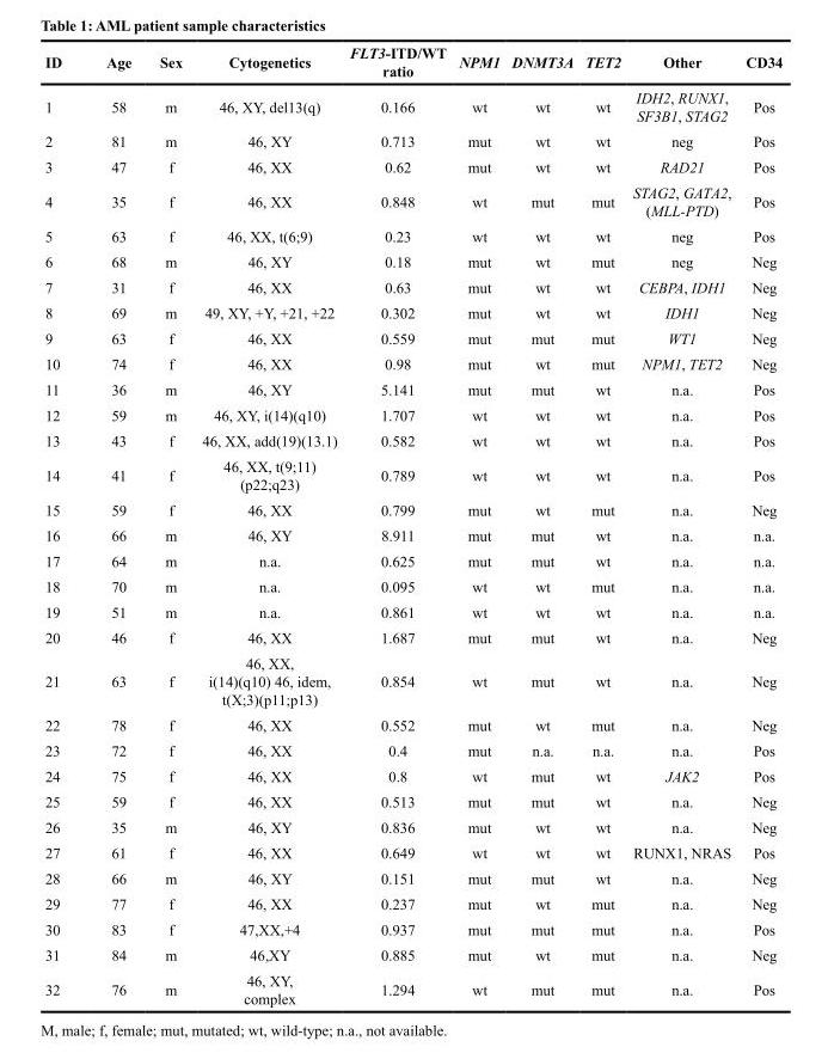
<table><thead><tr><td>ID</td><td>Age</td><td>Sex</td><td>Cytogenetics</td><td>FLT3-ITD/WT ratio</td><td>NPM1</td><td>DNMT3A</td><td>TET2</td><td>Other</td><td>CD34</td></tr></thead><tbody><tr><td>1</td><td>58</td><td>m</td><td>46, XY, del13(q)</td><td>0.166</td><td>wt</td><td>wt</td><td>wt</td><td>IDH2, RUNX1, SF3B1, STAG2</td><td>Pos</td></tr><tr><td>2</td><td>81</td><td>m</td><td>46, XY</td><td>0.713</td><td>mut</td><td>wt</td><td>wt</td><td>neg</td><td>Pos</td></tr><tr><td>3</td><td>47</td><td>f</td><td>46, XX</td><td>0.62</td><td>mut</td><td>wt</td><td>wt</td><td>RAD21</td><td>Pos</td></tr><tr><td>4</td><td>35</td><td>f</td><td>46, XX</td><td>0.848</td><td>wt</td><td>mut</td><td>mut</td><td>STAG2, GATA2, (MLL-PTD)</td><td>Pos</td></tr><tr><td>5</td><td>63</td><td>f</td><td>46, XX, t(6;9)</td><td>0.23</td><td>wt</td><td>wt</td><td>wt</td><td>neg</td><td>Pos</td></tr><tr><td>6</td><td>68</td><td>m</td><td>46, XY</td><td>0.18</td><td>mut</td><td>wt</td><td>mut</td><td>neg</td><td>Neg</td></tr><tr><td>7</td><td>31</td><td>f</td><td>46, XX</td><td>0.63</td><td>mut</td><td>wt</td><td>wt</td><td>CEBPA, IDH1</td><td>Neg</td></tr><tr><td>8</td><td>69</td><td>m</td><td>49, XY, +Y, +21, +22</td><td>0.302</td><td>mut</td><td>wt</td><td>wt</td><td>IDH1</td><td>Neg</td></tr><tr><td>9</td><td>63</td><td>f</td><td>46, XX</td><td>0.559</td><td>mut</td><td>mut</td><td>mut</td><td>WT1</td><td>Neg</td></tr><tr><td>10</td><td>74</td><td>f</td><td>46, XX</td><td>0.98</td><td>mut</td><td>wt</td><td>mut</td><td>NPM1, TET2</td><td>Neg</td></tr><tr><td>11</td><td>36</td><td>m</td><td>46, XY</td><td>5.141</td><td>mut</td><td>mut</td><td>wt</td><td>n.a.</td><td>Pos</td></tr><tr><td>12</td><td>59</td><td>m</td><td>46, XY, i(14)(q10)</td><td>1.707</td><td>wt</td><td>wt</td><td>wt</td><td>n.a.</td><td>Pos</td></tr><tr><td>13</td><td>43</td><td>f</td><td>46, XX, add(19)(13.1)</td><td>0.582</td><td>wt</td><td>wt</td><td>wt</td><td>n.a.</td><td>Pos</td></tr><tr><td>14</td><td>41</td><td>f</td><td>46, XX, t(9;11) (p22;q23)</td><td>0.789</td><td>wt</td><td>wt</td><td>wt</td><td>n.a.</td><td>Pos</td></tr><tr><td>15</td><td>59</td><td>f</td><td>46, XX</td><td>0.799</td><td>mut</td><td>wt</td><td>mut</td><td>n.a.</td><td>Neg</td></tr><tr><td>16</td><td>66</td><td>m</td><td>46, XY</td><td>8.911</td><td>mut</td><td>mut</td><td>wt</td><td>n.a.</td><td>n.a.</td></tr><tr><td>17</td><td>64</td><td>m</td><td>n.a.</td><td>0.625</td><td>mut</td><td>mut</td><td>wt</td><td>n.a.</td><td>n.a.</td></tr><tr><td>18</td><td>70</td><td>m</td><td>n.a.</td><td>0.095</td><td>wt</td><td>wt</td><td>mut</td><td>n.a.</td><td>n.a.</td></tr><tr><td>19</td><td>51</td><td>m</td><td>n.a.</td><td>0.861</td><td>wt</td><td>wt</td><td>wt</td><td>n.a.</td><td>n.a.</td></tr><tr><td>20</td><td>46</td><td>f</td><td>46, XX</td><td>1.687</td><td>mut</td><td>mut</td><td>wt</td><td>n.a.</td><td>Neg</td></tr><tr><td>21</td><td>63</td><td>f</td><td>46, XX, i(14)(q10) 46, idem, t(X;3)(p11;p13)</td><td>0.854</td><td>wt</td><td>mut</td><td>wt</td><td>n.a.</td><td>Neg</td></tr><tr><td>22</td><td>78</td><td>f</td><td>46, XX</td><td>0.552</td><td>mut</td><td>wt</td><td>mut</td><td>n.a.</td><td>Neg</td></tr><tr><td>23</td><td>72</td><td>f</td><td>46, XX</td><td>0.4</td><td>mut</td><td>n.a.</td><td>n.a.</td><td>n.a.</td><td>Pos</td></tr><tr><td>24</td><td>75</td><td>f</td><td>46, XX</td><td>0.8</td><td>wt</td><td>mut</td><td>wt</td><td>JAK2</td><td>Pos</td></tr><tr><td>25</td><td>59</td><td>f</td><td>46, XX</td><td>0.513</td><td>mut</td><td>mut</td><td>wt</td><td>n.a.</td><td>Neg</td></tr><tr><td>26</td><td>35</td><td>m</td><td>46, XY</td><td>0.836</td><td>mut</td><td>wt</td><td>wt</td><td>n.a.</td><td>Neg</td></tr><tr><td>27</td><td>61</td><td>f</td><td>46, XX</td><td>0.649</td><td>wt</td><td>wt</td><td>wt</td><td>RUNX1, NRAS</td><td>Pos</td></tr><tr><td>28</td><td>66</td><td>m</td><td>46, XY</td><td>0.151</td><td>mut</td><td>mut</td><td>wt</td><td>n.a.</td><td>Neg</td></tr><tr><td>29</td><td>77</td><td>f</td><td>46, XX</td><td>0.237</td><td>mut</td><td>wt</td><td>mut</td><td>n.a.</td><td>Neg</td></tr><tr><td>30</td><td>83</td><td>f</td><td>47,XX,+4</td><td>0.937</td><td>mut</td><td>mut</td><td>mut</td><td>n.a.</td><td>Pos</td></tr><tr><td>31</td><td>84</td><td>m</td><td>46,XY</td><td>0.885</td><td>mut</td><td>wt</td><td>mut</td><td>n.a.</td><td>Neg</td></tr><tr><td>32</td><td>76</td><td>m</td><td>46, XY, complex</td><td>1.294</td><td>wt</td><td>mut</td><td>mut</td><td>n.a.</td><td>Pos</td></tr></tbody></table>